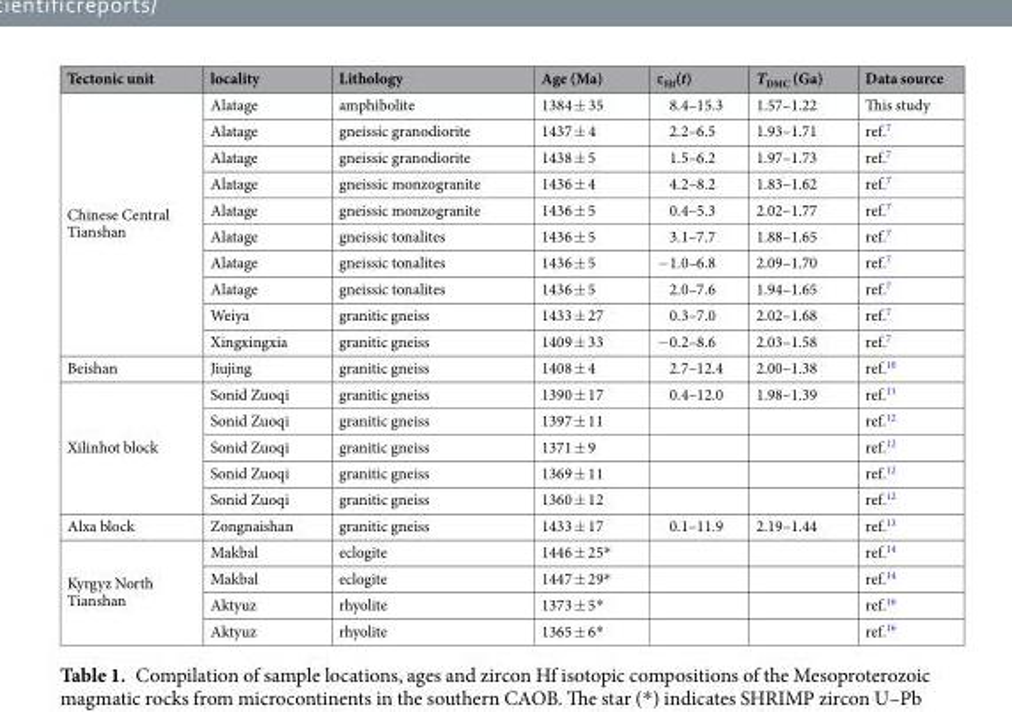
<table><thead><tr><td>Tectonic unit</td><td>locality</td><td>Lithology</td><td>Age (Ma)</td><td>ε<sub>Hf</sub>(t)</td><td>T<sub>DMC</sub> (Ga)</td><td>Data source</td></tr></thead><tbody><tr><td rowspan="10">Chinese Central Tianshan</td><td>Alatage</td><td>amphibolite</td><td>1384 ± 35</td><td>8.4–15.3</td><td>1.57–1.22</td><td>This study</td></tr><tr><td>Alatage</td><td>gneissic granodiorite</td><td>1437 ± 4</td><td>2.2–6.5</td><td>1.93–1.71</td><td>ref.<sup>7</sup></td></tr><tr><td>Alatage</td><td>gneissic granodiorite</td><td>1438 ± 5</td><td>1.5–6.2</td><td>1.97–1.73</td><td>ref.<sup>7</sup></td></tr><tr><td>Alatage</td><td>gneissic monzogranite</td><td>1436 ± 4</td><td>4.2–8.2</td><td>1.83–1.62</td><td>ref.<sup>7</sup></td></tr><tr><td>Alatage</td><td>gneissic monzogranite</td><td>1436 ± 5</td><td>0.4–5.3</td><td>2.02–1.77</td><td>ref.<sup>7</sup></td></tr><tr><td>Alatage</td><td>gneissic tonalites</td><td>1436 ± 5</td><td>3.1–7.7</td><td>1.88–1.65</td><td>ref.<sup>7</sup></td></tr><tr><td>Alatage</td><td>gneissic tonalites</td><td>1436 ± 5</td><td>−1.0–6.8</td><td>2.09–1.70</td><td>ref.<sup>7</sup></td></tr><tr><td>Alatage</td><td>gneissic tonalites</td><td>1436 ± 5</td><td>2.0–7.6</td><td>1.94–1.65</td><td>ref.<sup>7</sup></td></tr><tr><td>Weiya</td><td>granitic gneiss</td><td>1433 ± 27</td><td>0.3–7.0</td><td>2.02–1.68</td><td>ref.<sup>7</sup></td></tr><tr><td>Xingxingxia</td><td>granitic gneiss</td><td>1409 ± 33</td><td>−0.2–8.6</td><td>2.03–1.58</td><td>ref.<sup>7</sup></td></tr><tr><td>Beishan</td><td>Jiujing</td><td>granitic gneiss</td><td>1408 ± 4</td><td>2.7–12.4</td><td>2.00–1.38</td><td>ref.<sup>10</sup></td></tr><tr><td rowspan="5">Xilinhot block</td><td>Sonid Zuoqi</td><td>granitic gneiss</td><td>1390 ± 17</td><td>0.4–12.0</td><td>1.98–1.39</td><td>ref.<sup>11</sup></td></tr><tr><td>Sonid Zuoqi</td><td>granitic gneiss</td><td>1397 ± 11</td><td></td><td></td><td>ref.<sup>12</sup></td></tr><tr><td>Sonid Zuoqi</td><td>granitic gneiss</td><td>1371 ± 9</td><td></td><td></td><td>ref.<sup>12</sup></td></tr><tr><td>Sonid Zuoqi</td><td>granitic gneiss</td><td>1369 ± 11</td><td></td><td></td><td>ref.<sup>12</sup></td></tr><tr><td>Sonid Zuoqi</td><td>granitic gneiss</td><td>1360 ± 12</td><td></td><td></td><td>ref.<sup>12</sup></td></tr><tr><td>Alxa block</td><td>Zongnaishan</td><td>granitic gneiss</td><td>1433 ± 17</td><td>0.1–11.9</td><td>2.19–1.44</td><td>ref.<sup>13</sup></td></tr><tr><td rowspan="4">Kyrgyz North Tianshan</td><td>Makbal</td><td>eclogite</td><td>1446 ± 25*</td><td></td><td></td><td>ref.<sup>14</sup></td></tr><tr><td>Makbal</td><td>eclogite</td><td>1447 ± 29*</td><td></td><td></td><td>ref.<sup>14</sup></td></tr><tr><td>Aktyuz</td><td>rhyolite</td><td>1373 ± 5*</td><td></td><td></td><td>ref.<sup>16</sup></td></tr><tr><td>Aktyuz</td><td>rhyolite</td><td>1365 ± 6*</td><td></td><td></td><td>ref.<sup>16</sup></td></tr></tbody></table>